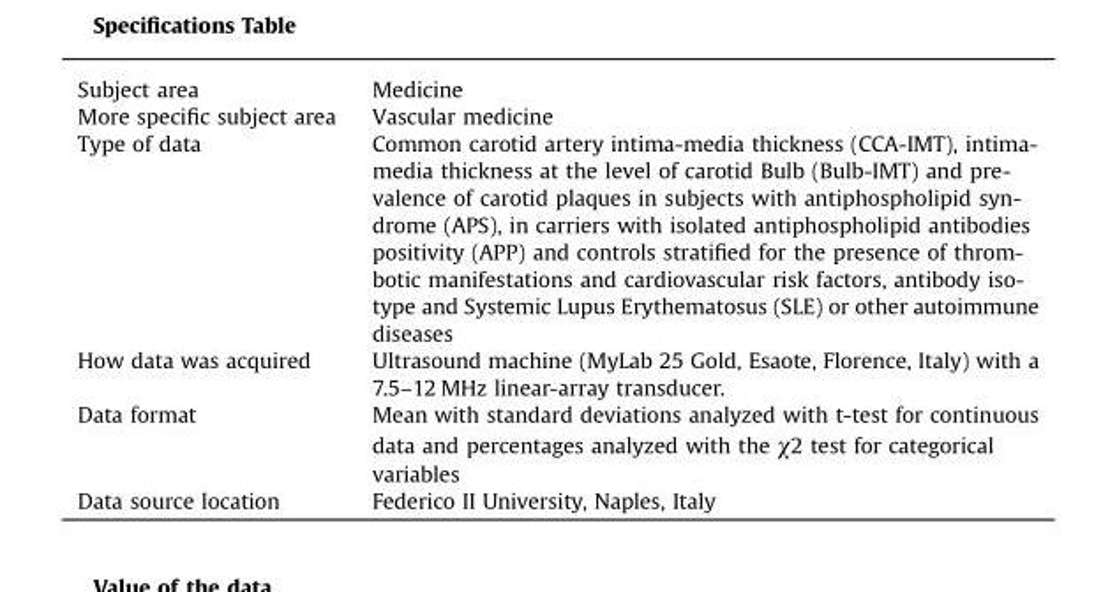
<table><tbody><tr><td>Subject area</td><td>Medicine</td></tr><tr><td>More specific subject area</td><td>Vascular medicine</td></tr><tr><td>Type of data</td><td>Common carotid artery intima-media thickness (CCA-IMT), intima- media thickness at the level of carotid Bulb (Bulb-IMT) and pre- valence of carotid plaques in subjects with antiphospholipid syn- drome (APS), in carriers with isolated antiphospholipid antibodies positivity (APP) and controls stratified for the presence of throm- botic manifestations and cardiovascular risk factors, antibody iso- type and Systemic Lupus Erythematosus (SLE) or other autoimmune diseases</td></tr><tr><td>How data was acquired</td><td>Ultrasound machine (MyLab 25 Gold, Esaote, Florence, Italy) with a 7.5–12 MHz linear-array transducer.</td></tr><tr><td>Data format</td><td>Mean with standard deviations analyzed with t-test for continuous data and percentages analyzed with the χ2 test for categorical variables</td></tr><tr><td>Data source location</td><td>Federico II University, Naples, Italy</td></tr></tbody></table>